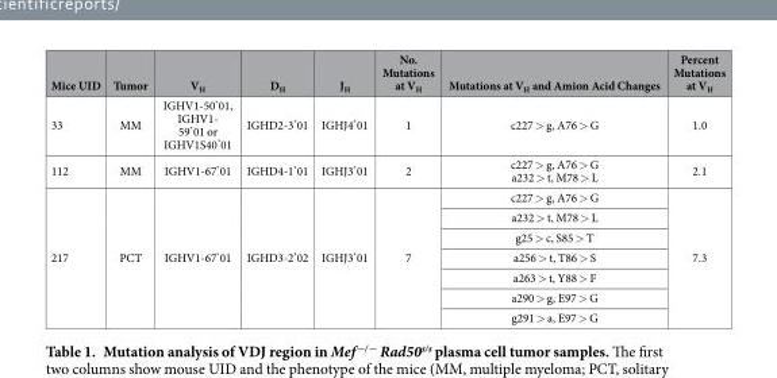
<table><thead><tr><td>Mice UID</td><td>Tumor</td><td>V<sub>H</sub></td><td>D<sub>H</sub></td><td>J<sub>H</sub></td><td>No. Mutations at V<sub>H</sub></td><td>Mutations at V<sub>H</sub> and Amion Acid Changes</td><td>Percent Mutations at V<sub>H</sub></td></tr></thead><tbody><tr><td>33</td><td>MM</td><td>IGHV1-50*01, IGHV1- 59*01 or IGHV1S40*01</td><td>IGHD2-3*01</td><td>IGHJ4*01</td><td>1</td><td>c227 &gt; g, A76 &gt; G</td><td>1.0</td></tr><tr><td>112</td><td>MM</td><td>IGHV1-67*01</td><td>IGHD4-1*01</td><td>IGHJ3*01</td><td>2</td><td>c227 &gt; g, A76 &gt; G a232 &gt; t, M78 &gt; L</td><td>2.1</td></tr><tr><td rowspan="7">217</td><td rowspan="7">PCT</td><td rowspan="7">IGHV1-67*01</td><td rowspan="7">IGHD3-2*02</td><td rowspan="7">IGHJ3*01</td><td rowspan="7">7</td><td>c227 &gt; g, A76 &gt; G</td><td rowspan="7">7.3</td></tr><tr><td>a232 &gt; t, M78 &gt; L</td></tr><tr><td>g25 &gt; c, S85 &gt; T</td></tr><tr><td>a256 &gt; t, T86 &gt; S</td></tr><tr><td>a263 &gt; t, Y88 &gt; F</td></tr><tr><td>a290 &gt; g, E97 &gt; G</td></tr><tr><td>g291 &gt; a, E97 &gt; G</td></tr></tbody></table>